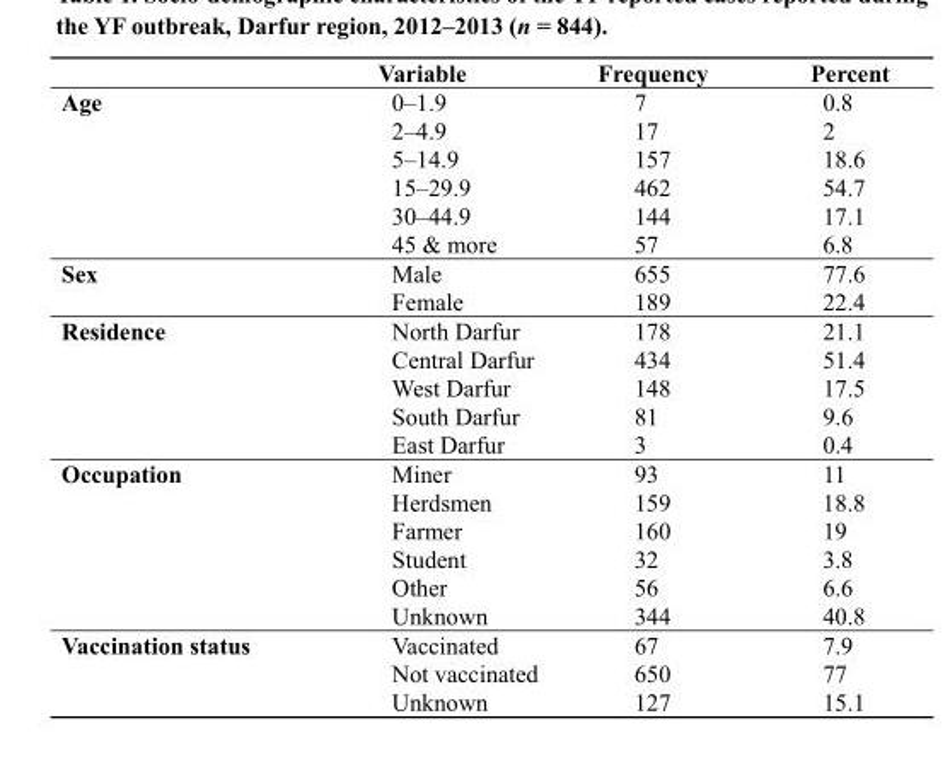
<table><thead><tr><td></td><td>Variable</td><td>Frequency</td><td>Percent</td></tr></thead><tbody><tr><td rowspan="6">Age</td><td>0–1.9</td><td>7</td><td>0.8</td></tr><tr><td>2–4.9</td><td>17</td><td>2</td></tr><tr><td>5–14.9</td><td>157</td><td>18.6</td></tr><tr><td>15–29.9</td><td>462</td><td>54.7</td></tr><tr><td>30–44.9</td><td>144</td><td>17.1</td></tr><tr><td>45 &amp; more</td><td>57</td><td>6.8</td></tr><tr><td rowspan="2">Sex</td><td>Male</td><td>655</td><td>77.6</td></tr><tr><td>Female</td><td>189</td><td>22.4</td></tr><tr><td rowspan="5">Residence</td><td>North Darfur</td><td>178</td><td>21.1</td></tr><tr><td>Central Darfur</td><td>434</td><td>51.4</td></tr><tr><td>West Darfur</td><td>148</td><td>17.5</td></tr><tr><td>South Darfur</td><td>81</td><td>9.6</td></tr><tr><td>East Darfur</td><td>3</td><td>0.4</td></tr><tr><td rowspan="6">Occupation</td><td>Miner</td><td>93</td><td>11</td></tr><tr><td>Herdsmen</td><td>159</td><td>18.8</td></tr><tr><td>Farmer</td><td>160</td><td>19</td></tr><tr><td>Student</td><td>32</td><td>3.8</td></tr><tr><td>Other</td><td>56</td><td>6.6</td></tr><tr><td>Unknown</td><td>344</td><td>40.8</td></tr><tr><td rowspan="3">Vaccination status</td><td>Vaccinated</td><td>67</td><td>7.9</td></tr><tr><td>Not vaccinated</td><td>650</td><td>77</td></tr><tr><td>Unknown</td><td>127</td><td>15.1</td></tr></tbody></table>